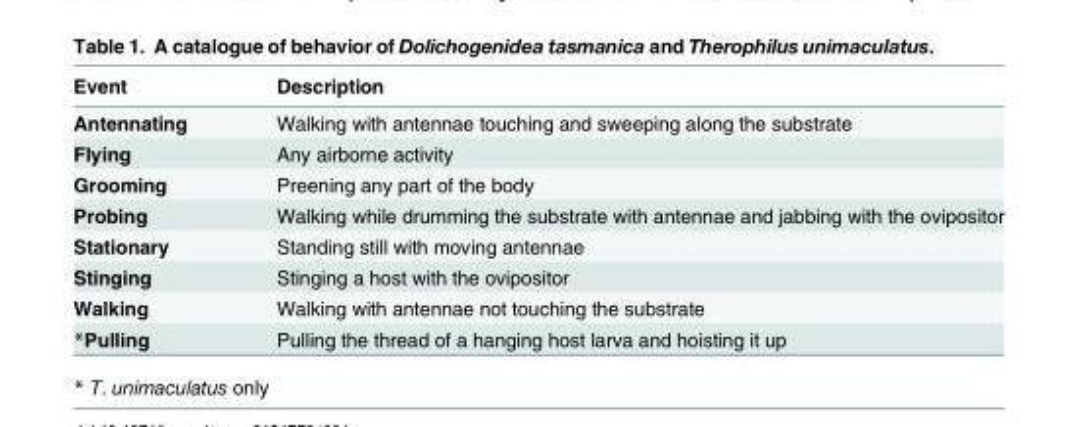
<table><thead><tr><td>Event</td><td>Description</td></tr></thead><tbody><tr><td>Antennating</td><td>Walking with antennae touching and sweeping along the substrate</td></tr><tr><td>Flying</td><td>Any airborne activity</td></tr><tr><td>Grooming</td><td>Preening any part of the body</td></tr><tr><td>Probing</td><td>Walking while drumming the substrate with antennae and jabbing with the ovipositor</td></tr><tr><td>Stationary</td><td>Standing still with moving antennae</td></tr><tr><td>Stinging</td><td>Stinging a host with the ovipositor</td></tr><tr><td>Walking</td><td>Walking with antennae not touching the substrate</td></tr><tr><td>*Pulling</td><td>Pulling the thread of a hanging host larva and hoisting it up</td></tr></tbody></table>